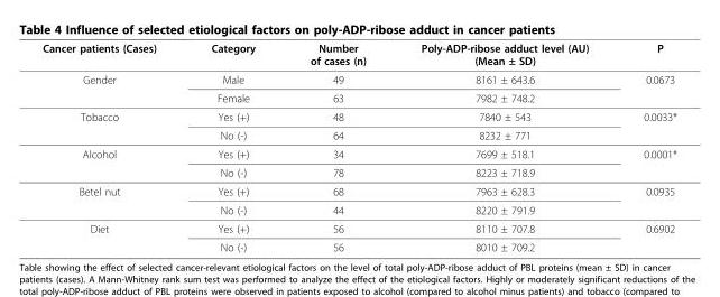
<table><thead><tr><td>Cancer patients (Cases)</td><td>Category</td><td>Number of cases (n)</td><td>Poly-ADP-ribose adduct level (AU) (Mean ± SD)</td><td>P</td></tr></thead><tbody><tr><td rowspan="2">Gender</td><td>Male</td><td>49</td><td>8161 ± 643.6</td><td>0.0673</td></tr><tr><td>Female</td><td>63</td><td>7982 ± 748.2</td><td></td></tr><tr><td rowspan="2">Tobacco</td><td>Yes (+)</td><td>48</td><td>7840 ± 543</td><td>0.0033*</td></tr><tr><td>No (-)</td><td>64</td><td>8232 ± 771</td><td></td></tr><tr><td rowspan="2">Alcohol</td><td>Yes (+)</td><td>34</td><td>7699 ± 518.1</td><td>0.0001*</td></tr><tr><td>No (-)</td><td>78</td><td>8223 ± 718.9</td><td></td></tr><tr><td rowspan="2">Betel nut</td><td>Yes (+)</td><td>68</td><td>7963 ± 628.3</td><td>0.0935</td></tr><tr><td>No (-)</td><td>44</td><td>8220 ± 791.9</td><td></td></tr><tr><td rowspan="2">Diet</td><td>Yes (+)</td><td>56</td><td>8110 ± 707.8</td><td>0.6902</td></tr><tr><td>No (-)</td><td>56</td><td>8010 ± 709.2</td><td></td></tr></tbody></table>